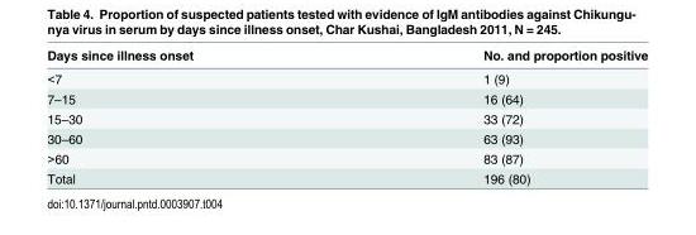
<table><thead><tr><td>Days since illness onset</td><td>No. and proportion positive</td></tr></thead><tbody><tr><td>&lt;7</td><td>1 (9)</td></tr><tr><td>7–15</td><td>16 (64)</td></tr><tr><td>15–30</td><td>33 (72)</td></tr><tr><td>30–60</td><td>63 (93)</td></tr><tr><td>&gt;60</td><td>83 (87)</td></tr><tr><td>Total</td><td>196 (80)</td></tr></tbody></table>